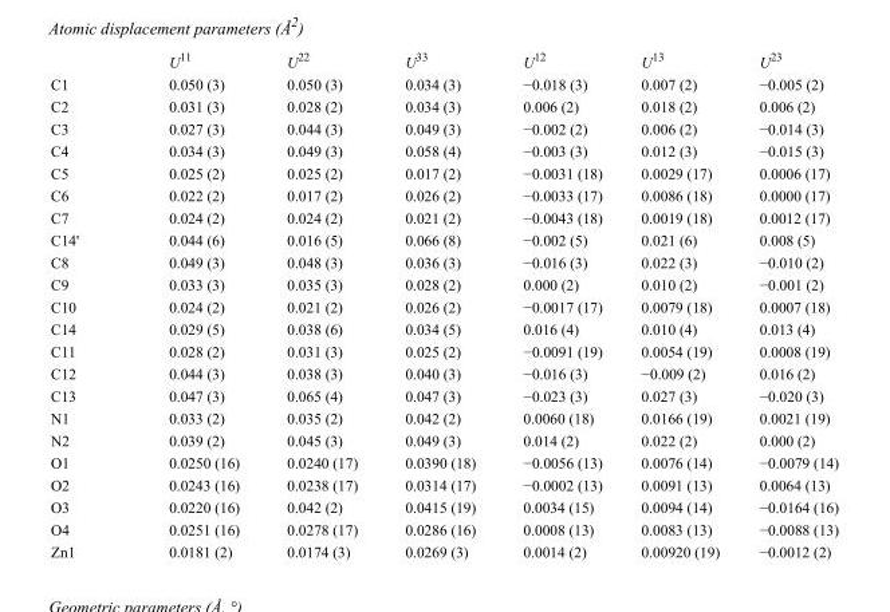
<table><thead><tr><td></td><td>U<sup>11</sup></td><td>U<sup>22</sup></td><td>U<sup>33</sup></td><td>U<sup>12</sup></td><td>U<sup>13</sup></td><td>U<sup>23</sup></td></tr></thead><tbody><tr><td>C1</td><td>0.050 (3)</td><td>0.050 (3)</td><td>0.034 (3)</td><td>−0.018 (3)</td><td>0.007 (2)</td><td>−0.005 (2)</td></tr><tr><td>C2</td><td>0.031 (3)</td><td>0.028 (2)</td><td>0.034 (3)</td><td>0.006 (2)</td><td>0.018 (2)</td><td>0.006 (2)</td></tr><tr><td>C3</td><td>0.027 (3)</td><td>0.044 (3)</td><td>0.049 (3)</td><td>−0.002 (2)</td><td>0.006 (2)</td><td>−0.014 (3)</td></tr><tr><td>C4</td><td>0.034 (3)</td><td>0.049 (3)</td><td>0.058 (4)</td><td>−0.003 (3)</td><td>0.012 (3)</td><td>−0.015 (3)</td></tr><tr><td>C5</td><td>0.025 (2)</td><td>0.025 (2)</td><td>0.017 (2)</td><td>−0.0031 (18)</td><td>0.0029 (17)</td><td>0.0006 (17)</td></tr><tr><td>C6</td><td>0.022 (2)</td><td>0.017 (2)</td><td>0.026 (2)</td><td>−0.0033 (17)</td><td>0.0086 (18)</td><td>0.0000 (17)</td></tr><tr><td>C7</td><td>0.024 (2)</td><td>0.024 (2)</td><td>0.021 (2)</td><td>−0.0043 (18)</td><td>0.0019 (18)</td><td>0.0012 (17)</td></tr><tr><td>C14&#x27;</td><td>0.044 (6)</td><td>0.016 (5)</td><td>0.066 (8)</td><td>−0.002 (5)</td><td>0.021 (6)</td><td>0.008 (5)</td></tr><tr><td>C8</td><td>0.049 (3)</td><td>0.048 (3)</td><td>0.036 (3)</td><td>−0.016 (3)</td><td>0.022 (3)</td><td>−0.010 (2)</td></tr><tr><td>C9</td><td>0.033 (3)</td><td>0.035 (3)</td><td>0.028 (2)</td><td>0.000 (2)</td><td>0.010 (2)</td><td>−0.001 (2)</td></tr><tr><td>C10</td><td>0.024 (2)</td><td>0.021 (2)</td><td>0.026 (2)</td><td>−0.0017 (17)</td><td>0.0079 (18)</td><td>0.0007 (18)</td></tr><tr><td>C14</td><td>0.029 (5)</td><td>0.038 (6)</td><td>0.034 (5)</td><td>0.016 (4)</td><td>0.010 (4)</td><td>0.013 (4)</td></tr><tr><td>C11</td><td>0.028 (2)</td><td>0.031 (3)</td><td>0.025 (2)</td><td>−0.0091 (19)</td><td>0.0054 (19)</td><td>0.0008 (19)</td></tr><tr><td>C12</td><td>0.044 (3)</td><td>0.038 (3)</td><td>0.040 (3)</td><td>−0.016 (3)</td><td>−0.009 (2)</td><td>0.016 (2)</td></tr><tr><td>C13</td><td>0.047 (3)</td><td>0.065 (4)</td><td>0.047 (3)</td><td>−0.023 (3)</td><td>0.027 (3)</td><td>−0.020 (3)</td></tr><tr><td>N1</td><td>0.033 (2)</td><td>0.035 (2)</td><td>0.042 (2)</td><td>0.0060 (18)</td><td>0.0166 (19)</td><td>0.0021 (19)</td></tr><tr><td>N2</td><td>0.039 (2)</td><td>0.045 (3)</td><td>0.049 (3)</td><td>0.014 (2)</td><td>0.022 (2)</td><td>0.000 (2)</td></tr><tr><td>O1</td><td>0.0250 (16)</td><td>0.0240 (17)</td><td>0.0390 (18)</td><td>−0.0056 (13)</td><td>0.0076 (14)</td><td>−0.0079 (14)</td></tr><tr><td>O2</td><td>0.0243 (16)</td><td>0.0238 (17)</td><td>0.0314 (17)</td><td>−0.0002 (13)</td><td>0.0091 (13)</td><td>0.0064 (13)</td></tr><tr><td>O3</td><td>0.0220 (16)</td><td>0.042 (2)</td><td>0.0415 (19)</td><td>0.0034 (15)</td><td>0.0094 (14)</td><td>−0.0164 (16)</td></tr><tr><td>O4</td><td>0.0251 (16)</td><td>0.0278 (17)</td><td>0.0286 (16)</td><td>0.0008 (13)</td><td>0.0083 (13)</td><td>−0.0088 (13)</td></tr><tr><td>Zn1</td><td>0.0181 (2)</td><td>0.0174 (3)</td><td>0.0269 (3)</td><td>0.0014 (2)</td><td>0.00920 (19)</td><td>−0.0012 (2)</td></tr></tbody></table>